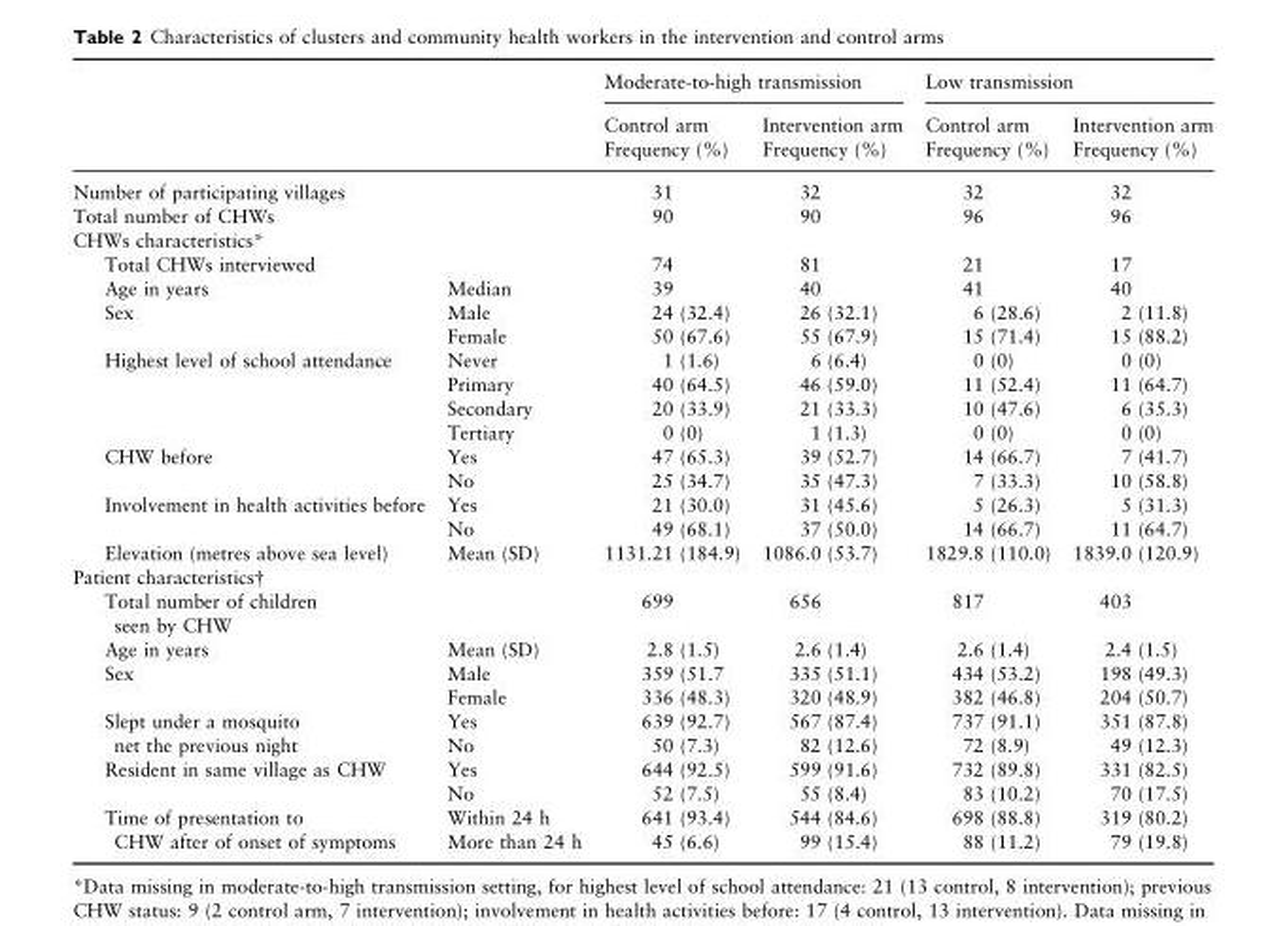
<table><thead><tr><td rowspan="3"></td><td rowspan="3"></td><td colspan="2">Moderate-to-high transmission</td><td colspan="2">Low transmission</td></tr><tr><td rowspan="2">Control arm Frequency (%)</td><td rowspan="2">Intervention arm Frequency (%)</td><td rowspan="2">Control arm Frequency (%)</td><td rowspan="2">Intervention arm Frequency (%)</td></tr><tr></tr></thead><tbody><tr><td>Number of participating villages</td><td></td><td>31</td><td>32</td><td>32</td><td>32</td></tr><tr><td>Total number of CHWs</td><td></td><td>90</td><td>90</td><td>96</td><td>96</td></tr><tr><td colspan="6">CHWs characteristics*</td></tr><tr><td>Total CHWs interviewed</td><td></td><td>74</td><td>81</td><td>21</td><td>17</td></tr><tr><td>Age in years</td><td>Median</td><td>39</td><td>40</td><td>41</td><td>40</td></tr><tr><td rowspan="2">Sex</td><td>Male</td><td>24 (32.4)</td><td>26 (32.1)</td><td>6 (28.6)</td><td>2 (11.8)</td></tr><tr><td>Female</td><td>50 (67.6)</td><td>55 (67.9)</td><td>15 (71.4)</td><td>15 (88.2)</td></tr><tr><td rowspan="4">Highest level of school attendance</td><td>Never</td><td>1 (1.6)</td><td>6 (6.4)</td><td>0 (0)</td><td>0 (0)</td></tr><tr><td>Primary</td><td>40 (64.5)</td><td>46 (59.0)</td><td>11 (52.4)</td><td>11 (64.7)</td></tr><tr><td>Secondary</td><td>20 (33.9)</td><td>21 (33.3)</td><td>10 (47.6)</td><td>6 (35.3)</td></tr><tr><td>Tertiary</td><td>0 (0)</td><td>1 (1.3)</td><td>0 (0)</td><td>0 (0)</td></tr><tr><td rowspan="2">CHW before</td><td>Yes</td><td>47 (65.3)</td><td>39 (52.7)</td><td>14 (66.7)</td><td>7 (41.7)</td></tr><tr><td>No</td><td>25 (34.7)</td><td>35 (47.3)</td><td>7 (33.3)</td><td>10 (58.8)</td></tr><tr><td rowspan="2">Involvement in health activities before</td><td>Yes</td><td>21 (30.0)</td><td>31 (45.6)</td><td>5 (26.3)</td><td>5 (31.3)</td></tr><tr><td>No</td><td>49 (68.1)</td><td>37 (50.0)</td><td>14 (66.7)</td><td>11 (64.7)</td></tr><tr><td>Elevation (metres above sea level)</td><td>Mean (SD)</td><td>1131.21 (184.9)</td><td>1086.0 (53.7)</td><td>1829.8 (110.0)</td><td>1839.0 (120.9)</td></tr><tr><td colspan="6">Patient characteristics†</td></tr><tr><td>Total number of children seen by CHW</td><td></td><td>699</td><td>656</td><td>817</td><td>403</td></tr><tr><td>Age in years</td><td>Mean (SD)</td><td>2.8 (1.5)</td><td>2.6 (1.4)</td><td>2.6 (1.4)</td><td>2.4 (1.5)</td></tr><tr><td rowspan="2">Sex</td><td>Male</td><td>359 (51.7</td><td>335 (51.1)</td><td>434 (53.2)</td><td>198 (49.3)</td></tr><tr><td>Female</td><td>336 (48.3)</td><td>320 (48.9)</td><td>382 (46.8)</td><td>204 (50.7)</td></tr><tr><td rowspan="2">Slept under a mosquito net the previous night</td><td>Yes</td><td>639 (92.7)</td><td>567 (87.4)</td><td>737 (91.1)</td><td>351 (87.8)</td></tr><tr><td>No</td><td>50 (7.3)</td><td>82 (12.6)</td><td>72 (8.9)</td><td>49 (12.3)</td></tr><tr><td rowspan="2">Resident in same village as CHW</td><td>Yes</td><td>644 (92.5)</td><td>599 (91.6)</td><td>732 (89.8)</td><td>331 (82.5)</td></tr><tr><td>No</td><td>52 (7.5)</td><td>55 (8.4)</td><td>83 (10.2)</td><td>70 (17.5)</td></tr><tr><td rowspan="2">Time of presentation to CHW after of onset of symptoms</td><td>Within 24 h</td><td>641 (93.4)</td><td>544 (84.6)</td><td>698 (88.8)</td><td>319 (80.2)</td></tr><tr><td>More than 24 h</td><td>45 (6.6)</td><td>99 (15.4)</td><td>88 (11.2)</td><td>79 (19.8)</td></tr></tbody></table>